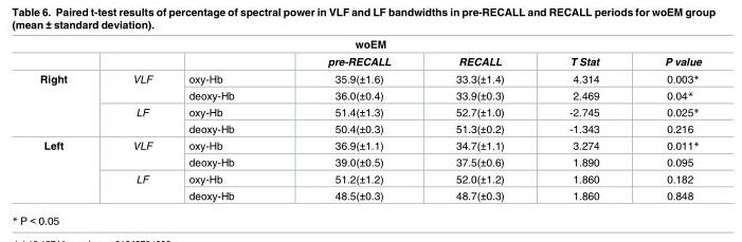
<table><thead><tr><td colspan="7">woEM</td></tr><tr><td></td><td></td><td></td><td>pre-RECALL</td><td>RECALL</td><td>T Stat</td><td>P value</td></tr></thead><tbody><tr><td rowspan="4">Right</td><td rowspan="2">VLF</td><td>oxy-Hb</td><td>35.9(±1.6)</td><td>33.3(±1.4)</td><td>4.314</td><td>0.003*</td></tr><tr><td>deoxy-Hb</td><td>36.0(±0.4)</td><td>33.9(±0.3)</td><td>2.469</td><td>0.04*</td></tr><tr><td rowspan="2">LF</td><td>oxy-Hb</td><td>51.4(±1.3)</td><td>52.7(±1.0)</td><td>-2.745</td><td>0.025*</td></tr><tr><td>deoxy-Hb</td><td>50.4(±0.3)</td><td>51.3(±0.2)</td><td>-1.343</td><td>0.216</td></tr><tr><td rowspan="4">Left</td><td rowspan="2">VLF</td><td>oxy-Hb</td><td>36.9(±1.1)</td><td>34.7(±1.1)</td><td>3.274</td><td>0.011*</td></tr><tr><td>deoxy-Hb</td><td>39.0(±0.5)</td><td>37.5(±0.6)</td><td>1.890</td><td>0.095</td></tr><tr><td rowspan="2">LF</td><td>oxy-Hb</td><td>51.2(±1.2)</td><td>52.0(±1.2)</td><td>1.860</td><td>0.182</td></tr><tr><td>deoxy-Hb</td><td>48.5(±0.3)</td><td>48.7(±0.3)</td><td>1.860</td><td>0.848</td></tr></tbody></table>